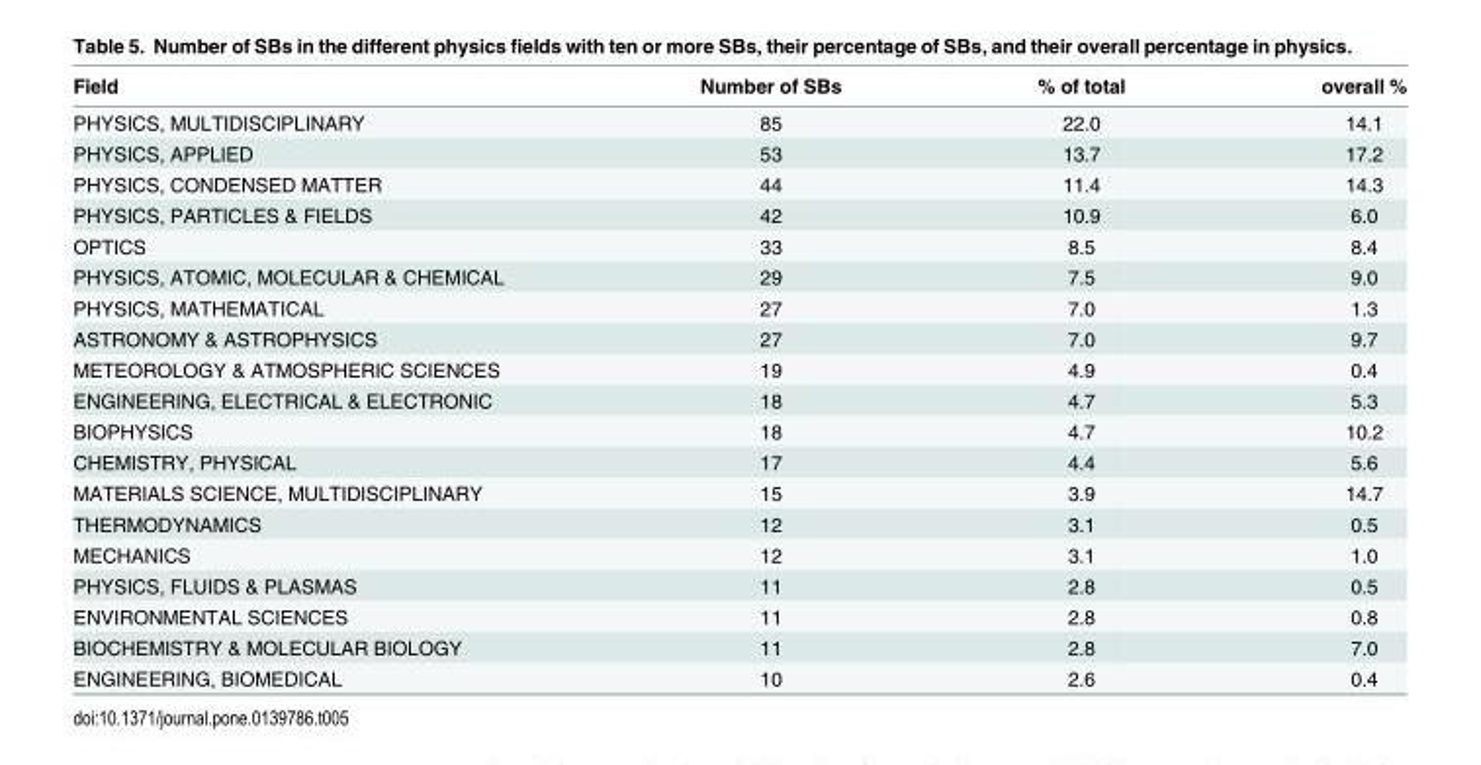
<table><thead><tr><td>Field</td><td>Number of SBs</td><td>% of total</td><td>overall %</td></tr></thead><tbody><tr><td>PHYSICS, MULTIDISCIPLINARY</td><td>85</td><td>22.0</td><td>14.1</td></tr><tr><td>PHYSICS, APPLIED</td><td>53</td><td>13.7</td><td>17.2</td></tr><tr><td>PHYSICS, CONDENSED MATTER</td><td>44</td><td>11.4</td><td>14.3</td></tr><tr><td>PHYSICS, PARTICLES &amp; FIELDS</td><td>42</td><td>10.9</td><td>6.0</td></tr><tr><td>OPTICS</td><td>33</td><td>8.5</td><td>8.4</td></tr><tr><td>PHYSICS, ATOMIC, MOLECULAR &amp; CHEMICAL</td><td>29</td><td>7.5</td><td>9.0</td></tr><tr><td>PHYSICS, MATHEMATICAL</td><td>27</td><td>7.0</td><td>1.3</td></tr><tr><td>ASTRONOMY &amp; ASTROPHYSICS</td><td>27</td><td>7.0</td><td>9.7</td></tr><tr><td>METEOROLOGY &amp; ATMOSPHERIC SCIENCES</td><td>19</td><td>4.9</td><td>0.4</td></tr><tr><td>ENGINEERING, ELECTRICAL &amp; ELECTRONIC</td><td>18</td><td>4.7</td><td>5.3</td></tr><tr><td>BIOPHYSICS</td><td>18</td><td>4.7</td><td>10.2</td></tr><tr><td>CHEMISTRY, PHYSICAL</td><td>17</td><td>4.4</td><td>5.6</td></tr><tr><td>MATERIALS SCIENCE, MULTIDISCIPLINARY</td><td>15</td><td>3.9</td><td>14.7</td></tr><tr><td>THERMODYNAMICS</td><td>12</td><td>3.1</td><td>0.5</td></tr><tr><td>MECHANICS</td><td>12</td><td>3.1</td><td>1.0</td></tr><tr><td>PHYSICS, FLUIDS &amp; PLASMAS</td><td>11</td><td>2.8</td><td>0.5</td></tr><tr><td>ENVIRONMENTAL SCIENCES</td><td>11</td><td>2.8</td><td>0.8</td></tr><tr><td>BIOCHEMISTRY &amp; MOLECULAR BIOLOGY</td><td>11</td><td>2.8</td><td>7.0</td></tr><tr><td>ENGINEERING, BIOMEDICAL</td><td>10</td><td>2.6</td><td>0.4</td></tr></tbody></table>